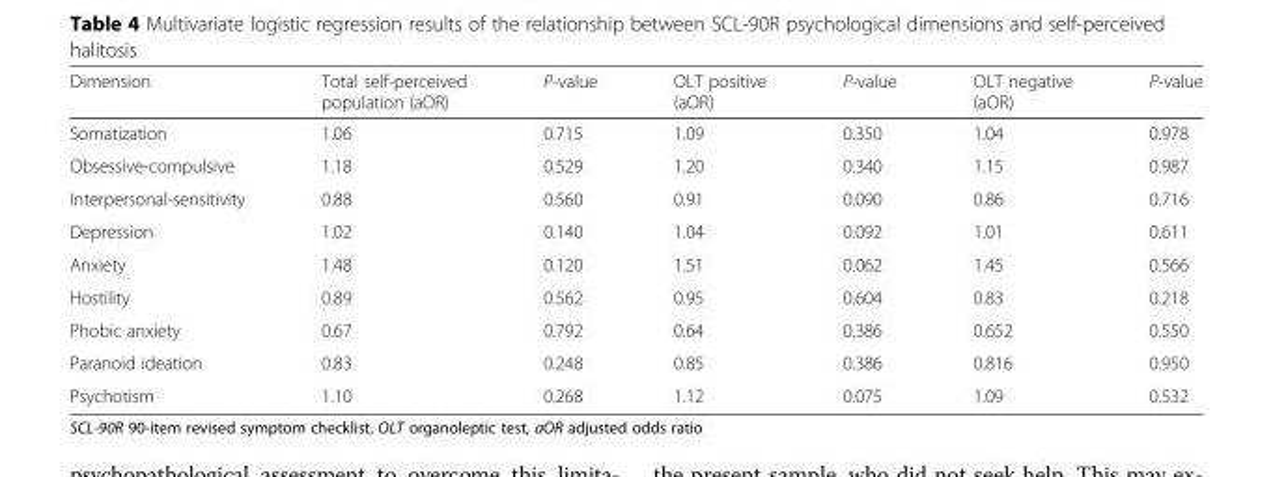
<table><thead><tr><td>Dimension</td><td>Total self-perceived population (aOR)</td><td>P-value</td><td>OLT positive (aOR)</td><td>P-value</td><td>OLT negative (aOR)</td><td>P-value</td></tr></thead><tbody><tr><td>Somatization</td><td>1.06</td><td>0.715</td><td>1.09</td><td>0.350</td><td>1.04</td><td>0.978</td></tr><tr><td>Obsessive-compulsive</td><td>1.18</td><td>0.529</td><td>1.20</td><td>0.340</td><td>1.15</td><td>0.987</td></tr><tr><td>Interpersonal-sensitivity</td><td>0.88</td><td>0.560</td><td>0.91</td><td>0.090</td><td>0.86</td><td>0.716</td></tr><tr><td>Depression</td><td>1.02</td><td>0.140</td><td>1.04</td><td>0.092</td><td>1.01</td><td>0.611</td></tr><tr><td>Anxiety</td><td>1.48</td><td>0.120</td><td>1.51</td><td>0.062</td><td>1.45</td><td>0.566</td></tr><tr><td>Hostility</td><td>0.89</td><td>0.562</td><td>0.95</td><td>0.604</td><td>0.83</td><td>0.218</td></tr><tr><td>Phobic anxiety</td><td>0.67</td><td>0.792</td><td>0.64</td><td>0.386</td><td>0.652</td><td>0.550</td></tr><tr><td>Paranoid ideation</td><td>0.83</td><td>0.248</td><td>0.85</td><td>0.386</td><td>0.816</td><td>0.950</td></tr><tr><td>Psychotism</td><td>1.10</td><td>0.268</td><td>1.12</td><td>0.075</td><td>1.09</td><td>0.532</td></tr></tbody></table>